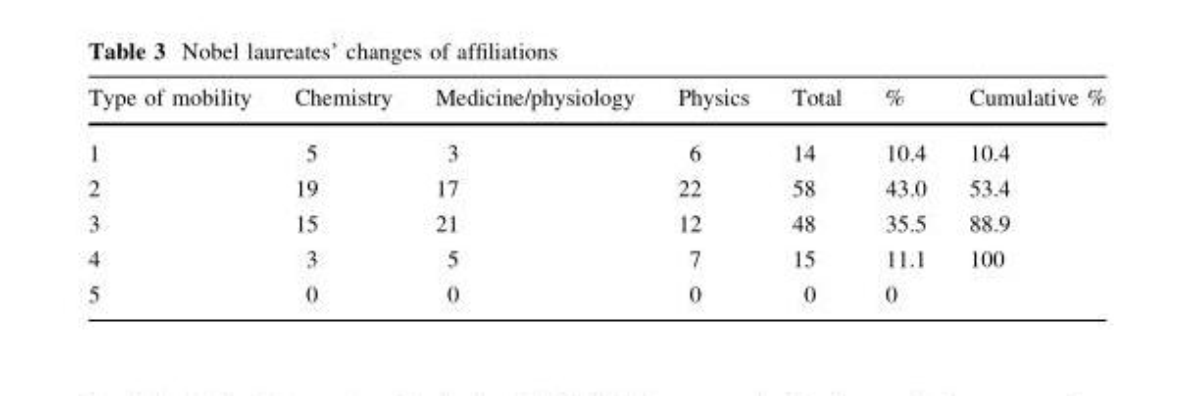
<table><thead><tr><td>Type of mobility</td><td>Chemistry</td><td>Medicine/physiology</td><td>Physics</td><td>Total</td><td>%</td><td>Cumulative %</td></tr></thead><tbody><tr><td>1</td><td>5</td><td>3</td><td>6</td><td>14</td><td>10.4</td><td>10.4</td></tr><tr><td>2</td><td>19</td><td>17</td><td>22</td><td>58</td><td>43.0</td><td>53.4</td></tr><tr><td>3</td><td>15</td><td>21</td><td>12</td><td>48</td><td>35.5</td><td>88.9</td></tr><tr><td>4</td><td>3</td><td>5</td><td>7</td><td>15</td><td>11.1</td><td>100</td></tr><tr><td>5</td><td>0</td><td>0</td><td>0</td><td>0</td><td>0</td><td></td></tr></tbody></table>